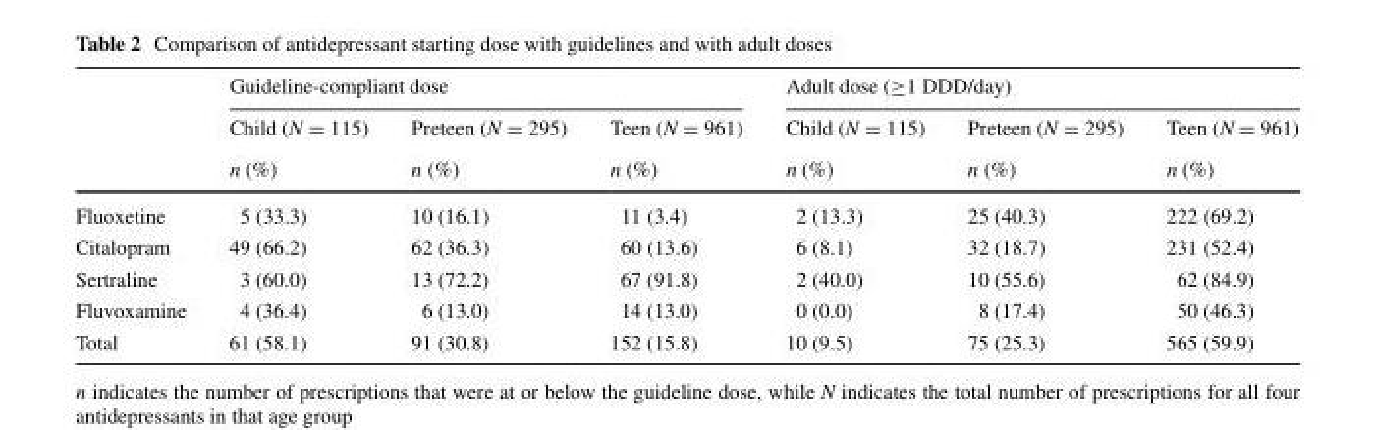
<table><thead><tr><td rowspan="3"></td><td colspan="3">Guideline-compliant dose</td><td colspan="3">Adult dose (≥1 DDD/day)</td></tr><tr><td rowspan="2">Child (N = 115) n (%)</td><td rowspan="2">Preteen (N = 295) n (%)</td><td rowspan="2">Teen (N = 961) n (%)</td><td rowspan="2">Child (N = 115) n (%)</td><td rowspan="2">Preteen (N = 295) n (%)</td><td rowspan="2">Teen (N = 961) n (%)</td></tr><tr></tr></thead><tbody><tr><td>Fluoxetine</td><td>5 (33.3)</td><td>10 (16.1)</td><td>11 (3.4)</td><td>2 (13.3)</td><td>25 (40.3)</td><td>222 (69.2)</td></tr><tr><td>Citalopram</td><td>49 (66.2)</td><td>62 (36.3)</td><td>60 (13.6)</td><td>6 (8.1)</td><td>32 (18.7)</td><td>231 (52.4)</td></tr><tr><td>Sertraline</td><td>3 (60.0)</td><td>13 (72.2)</td><td>67 (91.8)</td><td>2 (40.0)</td><td>10 (55.6)</td><td>62 (84.9)</td></tr><tr><td>Fluvoxamine</td><td>4 (36.4)</td><td>6 (13.0)</td><td>14 (13.0)</td><td>0 (0.0)</td><td>8 (17.4)</td><td>50 (46.3)</td></tr><tr><td>Total</td><td>61 (58.1)</td><td>91 (30.8)</td><td>152 (15.8)</td><td>10 (9.5)</td><td>75 (25.3)</td><td>565 (59.9)</td></tr></tbody></table>